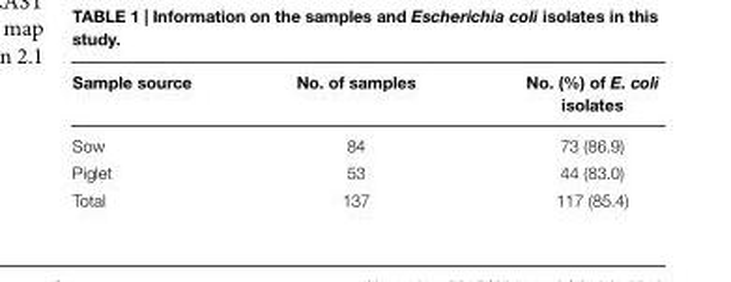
<table><thead><tr><td>Sample source</td><td>No. of samples</td><td>No. (%) of E. coli isolates</td></tr></thead><tbody><tr><td>Sow</td><td>84</td><td>73 (86.9)</td></tr><tr><td>Piglet</td><td>53</td><td>44 (83.0)</td></tr><tr><td>Total</td><td>137</td><td>117 (85.4)</td></tr></tbody></table>